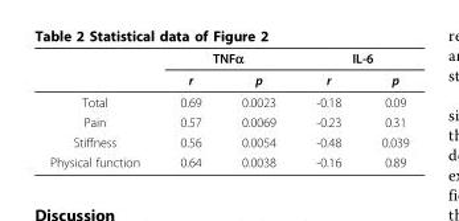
<table><thead><tr><td rowspan="2"></td><td colspan="2">TNFα</td><td colspan="2">IL-6</td></tr><tr><td>r</td><td>p</td><td>r</td><td>p</td></tr></thead><tbody><tr><td>Total</td><td>0.69</td><td>0.0023</td><td>-0.18</td><td>0.09</td></tr><tr><td>Pain</td><td>0.57</td><td>0.0069</td><td>-0.23</td><td>0.31</td></tr><tr><td>Stiffness</td><td>0.56</td><td>0.0054</td><td>-0.48</td><td>0.039</td></tr><tr><td>Physical function</td><td>0.64</td><td>0.0038</td><td>-0.16</td><td>0.89</td></tr></tbody></table>